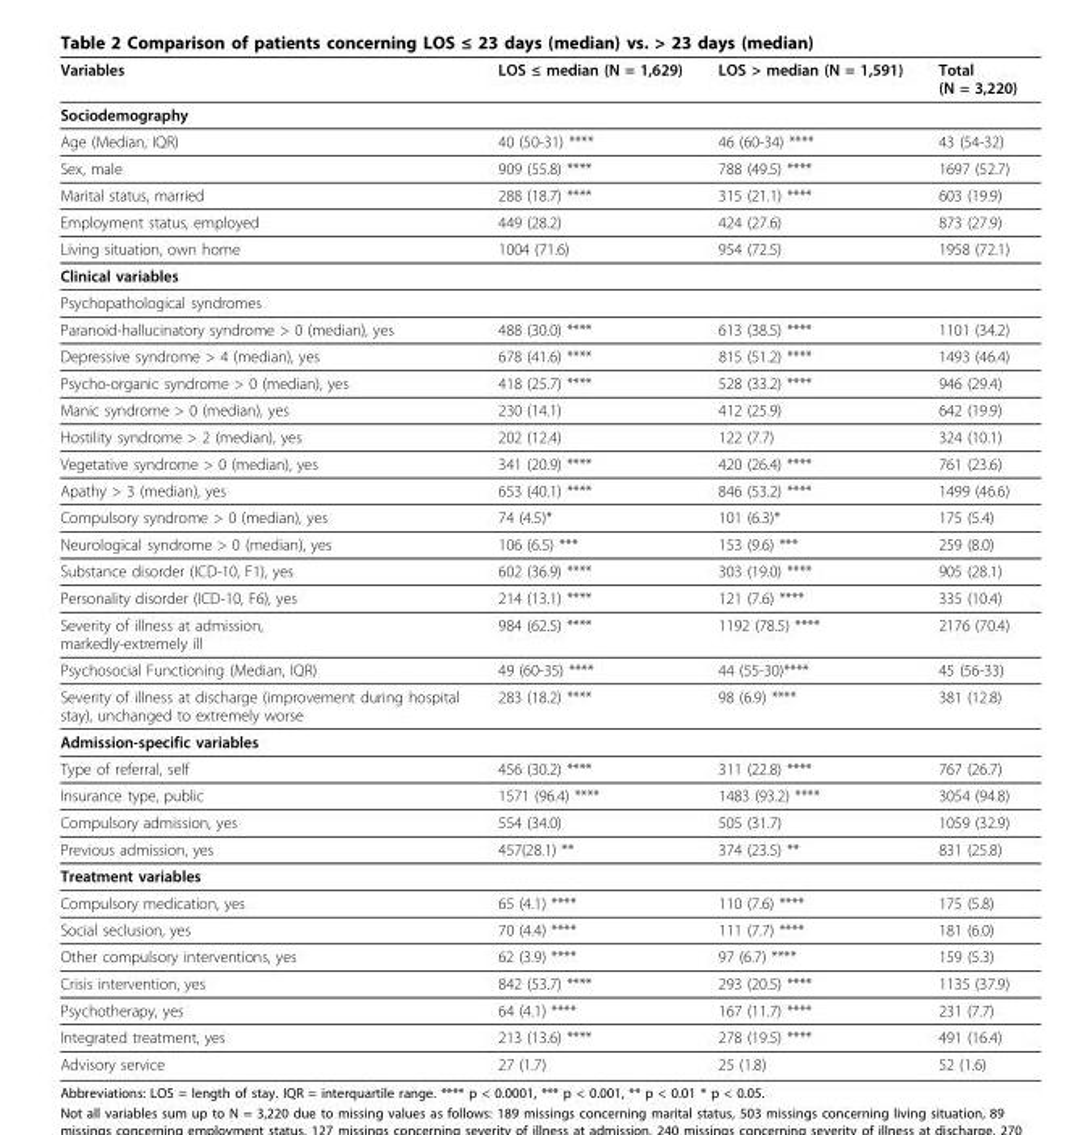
<table><thead><tr><td>Variables</td><td>LOS ≤ median (N = 1,629)</td><td>LOS &gt; median (N = 1,591)</td><td>Total (N = 3,220)</td></tr></thead><tbody><tr><td colspan="4">Sociodemography</td></tr><tr><td>Age (Median, IQR)</td><td>40 (50-31) ****</td><td>46 (60-34) ****</td><td>43 (54-32)</td></tr><tr><td>Sex, male</td><td>909 (55.8) ****</td><td>788 (49.5) ****</td><td>1697 (52.7)</td></tr><tr><td>Marital status, married</td><td>288 (18.7) ****</td><td>315 (21.1) ****</td><td>603 (19.9)</td></tr><tr><td>Employment status, employed</td><td>449 (28.2)</td><td>424 (27.6)</td><td>873 (27.9)</td></tr><tr><td>Living situation, own home</td><td>1004 (71.6)</td><td>954 (72.5)</td><td>1958 (72.1)</td></tr><tr><td colspan="4">Clinical variables</td></tr><tr><td colspan="4">Psychopathological syndromes</td></tr><tr><td>Paranoid-hallucinatory syndrome &gt; 0 (median), yes</td><td>488 (30.0) ****</td><td>613 (38.5) ****</td><td>1101 (34.2)</td></tr><tr><td>Depressive syndrome &gt; 4 (median), yes</td><td>678 (41.6) ****</td><td>815 (51.2) ****</td><td>1493 (46.4)</td></tr><tr><td>Psycho-organic syndrome &gt; 0 (median), yes</td><td>418 (25.7) ****</td><td>528 (33.2) ****</td><td>946 (29.4)</td></tr><tr><td>Manic syndrome &gt; 0 (median), yes</td><td>230 (14.1)</td><td>412 (25.9)</td><td>642 (19.9)</td></tr><tr><td>Hostility syndrome &gt; 2 (median), yes</td><td>202 (12.4)</td><td>122 (7.7)</td><td>324 (10.1)</td></tr><tr><td>Vegetative syndrome &gt; 0 (median), yes</td><td>341 (20.9) ****</td><td>420 (26.4) ****</td><td>761 (23.6)</td></tr><tr><td>Apathy &gt; 3 (median), yes</td><td>653 (40.1) ****</td><td>846 (53.2) ****</td><td>1499 (46.6)</td></tr><tr><td>Compulsory syndrome &gt; 0 (median), yes</td><td>74 (4.5)*</td><td>101 (6.3)*</td><td>175 (5.4)</td></tr><tr><td>Neurological syndrome &gt; 0 (median), yes</td><td>106 (6.5) ***</td><td>153 (9.6) ***</td><td>259 (8.0)</td></tr><tr><td>Substance disorder (ICD-10, F1), yes</td><td>602 (36.9) ****</td><td>303 (19.0) ****</td><td>905 (28.1)</td></tr><tr><td>Personality disorder (ICD-10, F6), yes</td><td>214 (13.1) ****</td><td>121 (7.6) ****</td><td>335 (10.4)</td></tr><tr><td>Severity of illness at admission, markedly-extremely ill</td><td>984 (62.5) ****</td><td>1192 (78.5) ****</td><td>2176 (70.4)</td></tr><tr><td>Psychosocial Functioning (Median, IQR)</td><td>49 (60-35) ****</td><td>44 (55-30)****</td><td>45 (56-33)</td></tr><tr><td>Severity of illness at discharge (improvement during hospital stay), unchanged to extremely worse</td><td>283 (18.2) ****</td><td>98 (6.9) ****</td><td>381 (12.8)</td></tr><tr><td colspan="4">Admission-specific variables</td></tr><tr><td>Type of referral, self</td><td>456 (30.2) ****</td><td>311 (22.8) ****</td><td>767 (26.7)</td></tr><tr><td>Insurance type, public</td><td>1571 (96.4) ****</td><td>1483 (93.2) ****</td><td>3054 (94.8)</td></tr><tr><td>Compulsory admission, yes</td><td>554 (34.0)</td><td>505 (31.7)</td><td>1059 (32.9)</td></tr><tr><td>Previous admission, yes</td><td>457(28.1) **</td><td>374 (23.5) **</td><td>831 (25.8)</td></tr><tr><td colspan="4">Treatment variables</td></tr><tr><td>Compulsory medication, yes</td><td>65 (4.1) ****</td><td>110 (7.6) ****</td><td>175 (5.8)</td></tr><tr><td>Social seclusion, yes</td><td>70 (4.4) ****</td><td>111 (7.7) ****</td><td>181 (6.0)</td></tr><tr><td>Other compulsory interventions, yes</td><td>62 (3.9) ****</td><td>97 (6.7) ****</td><td>159 (5.3)</td></tr><tr><td>Crisis intervention, yes</td><td>842 (53.7) ****</td><td>293 (20.5) ****</td><td>1135 (37.9)</td></tr><tr><td>Psychotherapy, yes</td><td>64 (4.1) ****</td><td>167 (11.7) ****</td><td>231 (7.7)</td></tr><tr><td>Integrated treatment, yes</td><td>213 (13.6) ****</td><td>278 (19.5) ****</td><td>491 (16.4)</td></tr><tr><td>Advisory service</td><td>27 (1.7)</td><td>25 (1.8)</td><td>52 (1.6)</td></tr></tbody></table>